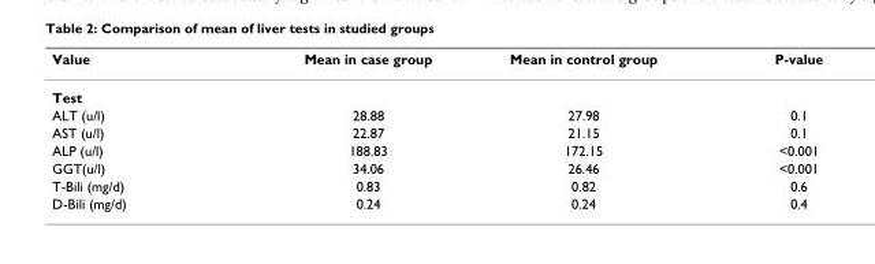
<table><thead><tr><td>Value</td><td>Mean in case group</td><td>Mean in control group</td><td>P-value</td></tr></thead><tbody><tr><td colspan="4">Test</td></tr><tr><td>ALT (u/l)</td><td>28.88</td><td>27.98</td><td>0.1</td></tr><tr><td>AST (u/l)</td><td>22.87</td><td>21.15</td><td>0.1</td></tr><tr><td>ALP (u/l)</td><td>188.83</td><td>172.15</td><td>&lt;0.001</td></tr><tr><td>GGT(u/l)</td><td>34.06</td><td>26.46</td><td>&lt;0.001</td></tr><tr><td>T-Bili (mg/d)</td><td>0.83</td><td>0.82</td><td>0.6</td></tr><tr><td>D-Bili (mg/d)</td><td>0.24</td><td>0.24</td><td>0.4</td></tr></tbody></table>